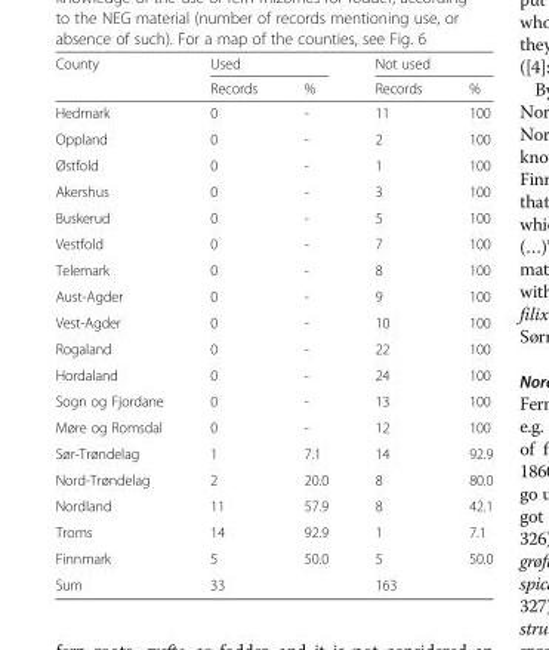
<table><thead><tr><td rowspan="2">County</td><td colspan="2">Used</td><td colspan="2">Not used</td></tr><tr><td>Records</td><td>%</td><td>Records</td><td>%</td></tr></thead><tbody><tr><td>Hedmark</td><td>0</td><td>-</td><td>11</td><td>100</td></tr><tr><td>Oppland</td><td>0</td><td>-</td><td>2</td><td>100</td></tr><tr><td>Østfold</td><td>0</td><td>-</td><td>1</td><td>100</td></tr><tr><td>Akershus</td><td>0</td><td>-</td><td>3</td><td>100</td></tr><tr><td>Buskerud</td><td>0</td><td>-</td><td>5</td><td>100</td></tr><tr><td>Vestfold</td><td>0</td><td>-</td><td>7</td><td>100</td></tr><tr><td>Telemark</td><td>0</td><td>-</td><td>8</td><td>100</td></tr><tr><td>Aust-Agder</td><td>0</td><td>-</td><td>9</td><td>100</td></tr><tr><td>Vest-Agder</td><td>0</td><td>-</td><td>10</td><td>100</td></tr><tr><td>Rogaland</td><td>0</td><td>-</td><td>22</td><td>100</td></tr><tr><td>Hordaland</td><td>0</td><td>-</td><td>24</td><td>100</td></tr><tr><td>Sogn og Fjordane</td><td>0</td><td>-</td><td>13</td><td>100</td></tr><tr><td>Møre og Romsdal</td><td>0</td><td>-</td><td>12</td><td>100</td></tr><tr><td>Sør-Trøndelag</td><td>1</td><td>7.1</td><td>14</td><td>92.9</td></tr><tr><td>Nord-Trøndelag</td><td>2</td><td>20.0</td><td>8</td><td>80.0</td></tr><tr><td>Nordland</td><td>11</td><td>57.9</td><td>8</td><td>42.1</td></tr><tr><td>Troms</td><td>14</td><td>92.9</td><td>1</td><td>7.1</td></tr><tr><td>Finnmark</td><td>5</td><td>50.0</td><td>5</td><td>50.0</td></tr><tr><td>Sum</td><td>33</td><td></td><td>163</td><td></td></tr></tbody></table>